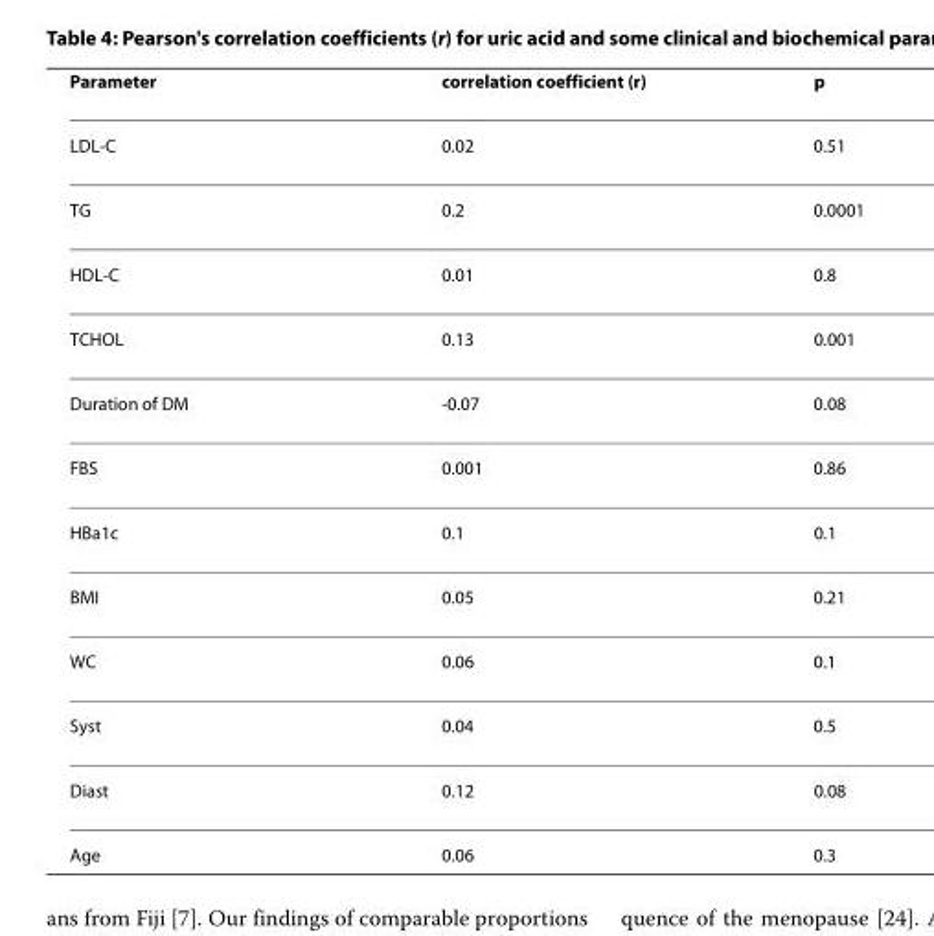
<table><thead><tr><td>Parameter</td><td>correlation coefficient (r)</td><td>p</td></tr></thead><tbody><tr><td>LDL-C</td><td>0.02</td><td>0.51</td></tr><tr><td>TG</td><td>0.2</td><td>0.0001</td></tr><tr><td>HDL-C</td><td>0.01</td><td>0.8</td></tr><tr><td>TCHOL</td><td>0.13</td><td>0.001</td></tr><tr><td>Duration of DM</td><td>-0.07</td><td>0.08</td></tr><tr><td>FBS</td><td>0.001</td><td>0.86</td></tr><tr><td>HBa1c</td><td>0.1</td><td>0.1</td></tr><tr><td>BMI</td><td>0.05</td><td>0.21</td></tr><tr><td>WC</td><td>0.06</td><td>0.1</td></tr><tr><td>Syst</td><td>0.04</td><td>0.5</td></tr><tr><td>Diast</td><td>0.12</td><td>0.08</td></tr><tr><td>Age</td><td>0.06</td><td>0.3</td></tr></tbody></table>